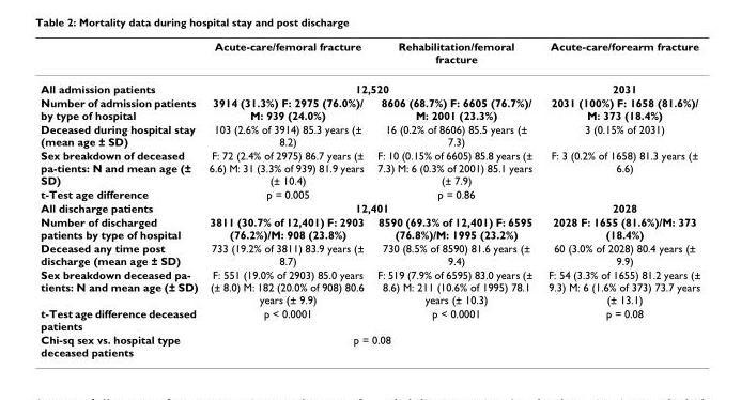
<table><thead><tr><td></td><td>Acute-care/femoral fracture</td><td>Rehabilitation/femoral fracture</td><td>Acute-care/forearm fracture</td></tr></thead><tbody><tr><td>All admission patients</td><td colspan="2">12,520</td><td>2031</td></tr><tr><td>Number of admission patients by type of hospital</td><td>3914 (31.3%) F: 2975 (76.0%)/ M: 939 (24.0%)</td><td>8606 (68.7%) F: 6605 (76.7%)/ M: 2001 (23.3%)</td><td>2031 (100%) F: 1658 (81.6%)/ M: 373 (18.4%)</td></tr><tr><td>Deceased during hospital stay (mean age ± SD)</td><td>103 (2.6% of 3914) 85.3 years (± 8.2)</td><td>16 (0.2% of 8606) 85.5 years (± 7.3)</td><td>3 (0.15% of 2031)</td></tr><tr><td>Sex breakdown of deceased pa-tients: N and mean age (± SD)</td><td>F: 72 (2.4% of 2975) 86.7 years (± 6.6) M: 31 (3.3% of 939) 81.9 years (± 10.4)</td><td>F: 10 (0.15% of 6605) 85.8 years (± 7.3) M: 6 (0.3% of 2001) 85.1 years (± 7.9)</td><td>F: 3 (0.2% of 1658) 81.3 years (± 6.6)</td></tr><tr><td>t-Test age difference</td><td>p = 0.005</td><td>p = 0.86</td><td></td></tr><tr><td>All discharge patients</td><td colspan="2">12,401</td><td>2028</td></tr><tr><td>Number of discharged patients by type of hospital</td><td>3811 (30.7% of 12,401) F: 2903 (76.2%)/M: 908 (23.8%)</td><td>8590 (69.3% of 12,401) F: 6595 (76.8%)/M: 1995 (23.2%)</td><td>2028 F: 1655 (81.6%)/M: 373 (18.4%)</td></tr><tr><td>Deceased any time post discharge (mean age ± SD)</td><td>733 (19.2% of 3811) 83.9 years (± 8.7)</td><td>730 (8.5% of 8590) 81.6 years (± 9.4)</td><td>60 (3.0% of 2028) 80.4 years (± 9.9)</td></tr><tr><td>Sex breakdown deceased pa- tients: N and mean age (± SD)</td><td>F: 551 (19.0% of 2903) 85.0 years (± 8.0) M: 182 (20.0% of 908) 80.6 years (± 9.9)</td><td>F: 519 (7.9% of 6595) 83.0 years (± 8.6) M: 211 (10.6% of 1995) 78.1 years (± 10.3)</td><td>F: 54 (3.3% of 1655) 81.2 years (± 9.3) M: 6 (1.6% of 373) 73.7 years (± 13.1)</td></tr><tr><td>t-Test age difference deceased patients</td><td>p &lt; 0.0001</td><td>p &lt; 0.0001</td><td>p = 0.08</td></tr><tr><td>Chi-sq sex vs. hospital type deceased patients</td><td colspan="2">p = 0.08</td><td></td></tr></tbody></table>